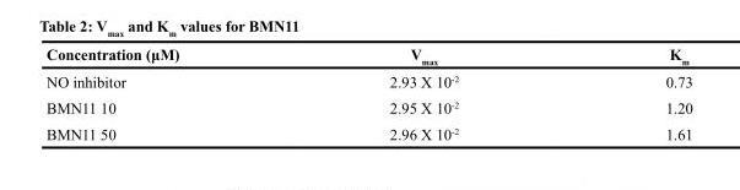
<table><thead><tr><td>Concentration (μM)</td><td>V<sub>max</sub></td><td>K<sub>m</sub></td></tr></thead><tbody><tr><td>NO inhibitor</td><td>2.93 X 10<sup>-2</sup></td><td>0.73</td></tr><tr><td>BMN11 10</td><td>2.95 X 10<sup>-2</sup></td><td>1.20</td></tr><tr><td>BMN11 50</td><td>2.96 X 10<sup>-2</sup></td><td>1.61</td></tr></tbody></table>